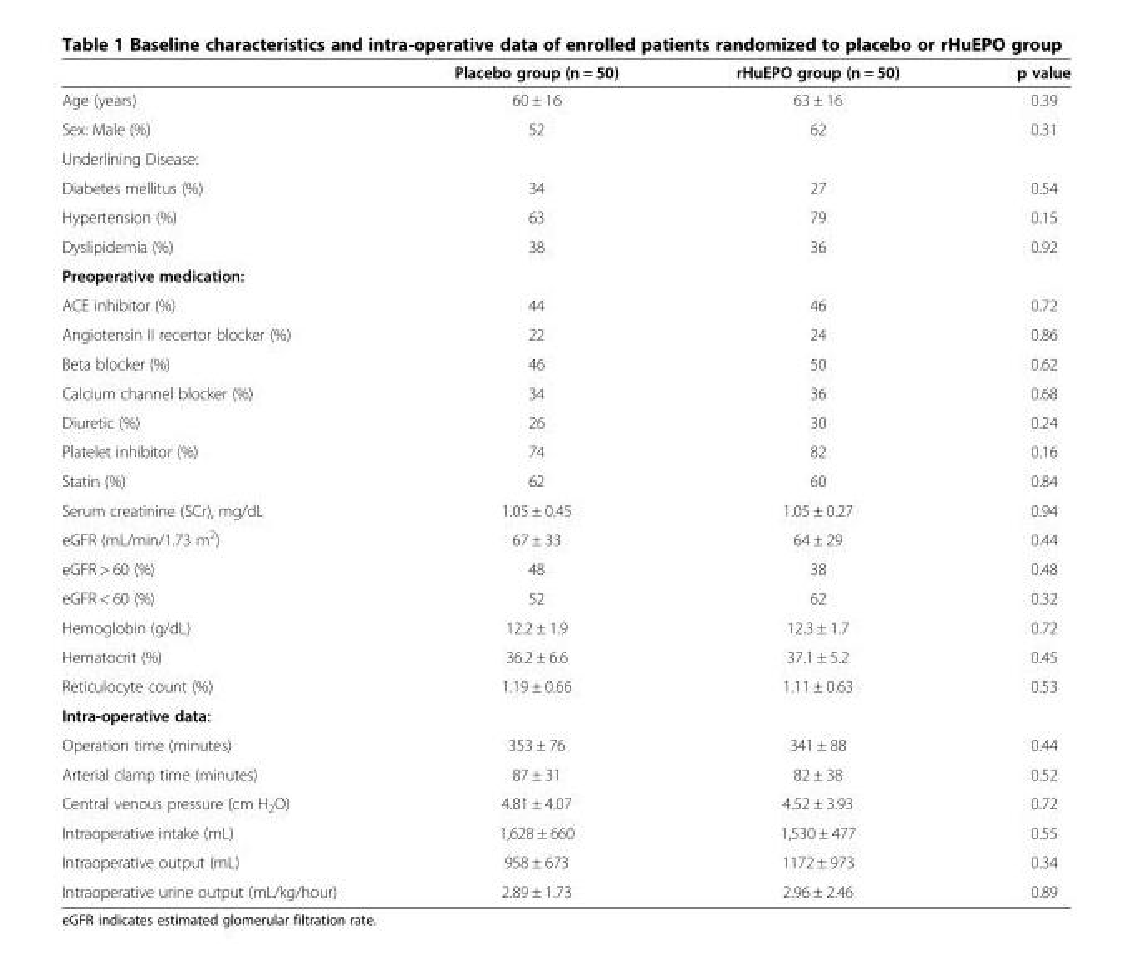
<table><thead><tr><td></td><td>Placebo group (n = 50)</td><td>rHuEPO group (n = 50)</td><td>p value</td></tr></thead><tbody><tr><td>Age (years)</td><td>60 ± 16</td><td>63 ± 16</td><td>0.39</td></tr><tr><td>Sex: Male (%)</td><td>52</td><td>62</td><td>0.31</td></tr><tr><td colspan="4">Underlining Disease:</td></tr><tr><td>Diabetes mellitus (%)</td><td>34</td><td>27</td><td>0.54</td></tr><tr><td>Hypertension (%)</td><td>63</td><td>79</td><td>0.15</td></tr><tr><td>Dyslipidemia (%)</td><td>38</td><td>36</td><td>0.92</td></tr><tr><td colspan="4">Preoperative medication:</td></tr><tr><td>ACE inhibitor (%)</td><td>44</td><td>46</td><td>0.72</td></tr><tr><td>Angiotensin II recertor blocker (%)</td><td>22</td><td>24</td><td>0.86</td></tr><tr><td>Beta blocker (%)</td><td>46</td><td>50</td><td>0.62</td></tr><tr><td>Calcium channel blocker (%)</td><td>34</td><td>36</td><td>0.68</td></tr><tr><td>Diuretic (%)</td><td>26</td><td>30</td><td>0.24</td></tr><tr><td>Platelet inhibitor (%)</td><td>74</td><td>82</td><td>0.16</td></tr><tr><td>Statin (%)</td><td>62</td><td>60</td><td>0.84</td></tr><tr><td>Serum creatinine (SCr), mg/dL</td><td>1.05 ± 0.45</td><td>1.05 ± 0.27</td><td>0.94</td></tr><tr><td>eGFR (mL/min/1.73 m<sup>2</sup>)</td><td>67 ± 33</td><td>64 ± 29</td><td>0.44</td></tr><tr><td>eGFR &gt; 60 (%)</td><td>48</td><td>38</td><td>0.48</td></tr><tr><td>eGFR &lt; 60 (%)</td><td>52</td><td>62</td><td>0.32</td></tr><tr><td>Hemoglobin (g/dL)</td><td>12.2 ± 1.9</td><td>12.3 ± 1.7</td><td>0.72</td></tr><tr><td>Hematocrit (%)</td><td>36.2 ± 6.6</td><td>37.1 ± 5.2</td><td>0.45</td></tr><tr><td>Reticulocyte count (%)</td><td>1.19 ± 0.66</td><td>1.11 ± 0.63</td><td>0.53</td></tr><tr><td colspan="4">Intra-operative data:</td></tr><tr><td>Operation time (minutes)</td><td>353 ± 76</td><td>341 ± 88</td><td>0.44</td></tr><tr><td>Arterial clamp time (minutes)</td><td>87 ± 31</td><td>82 ± 38</td><td>0.52</td></tr><tr><td>Central venous pressure (cm H<sub>2</sub>O)</td><td>4.81 ± 4.07</td><td>4.52 ± 3.93</td><td>0.72</td></tr><tr><td>Intraoperative intake (mL)</td><td>1,628 ± 660</td><td>1,530 ± 477</td><td>0.55</td></tr><tr><td>Intraoperative output (mL)</td><td>958 ± 673</td><td>1172 ± 973</td><td>0.34</td></tr><tr><td>Intraoperative urine output (mL/kg/hour)</td><td>2.89 ± 1.73</td><td>2.96 ± 2.46</td><td>0.89</td></tr></tbody></table>